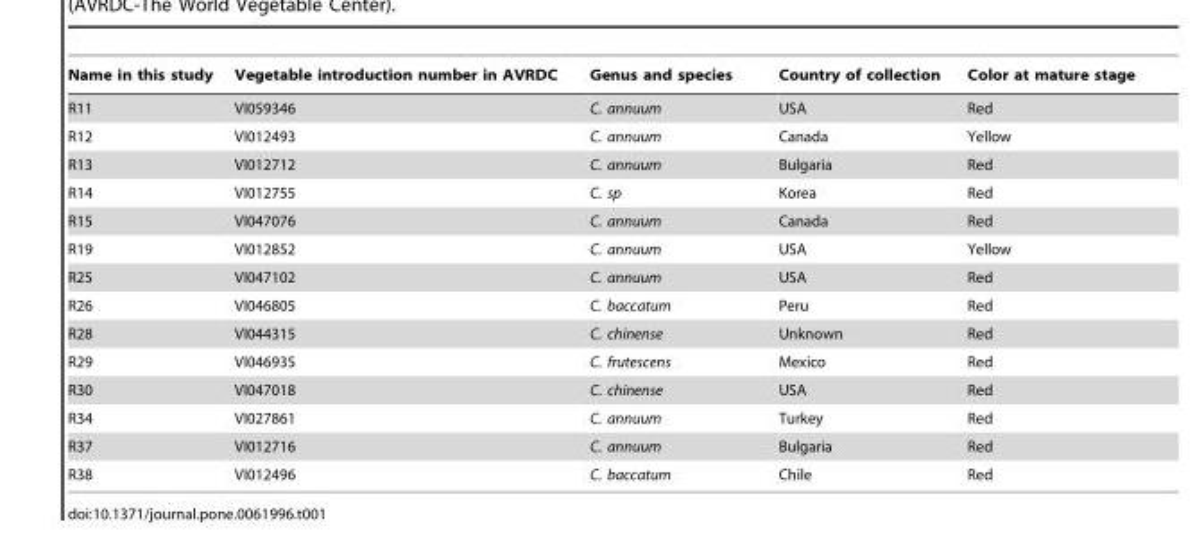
<table><thead><tr><td>Name in this study</td><td>Vegetable introduction number in AVRDC</td><td>Genus and species</td><td>Country of collection</td><td>Color at mature stage</td></tr></thead><tbody><tr><td>R11</td><td>VI059346</td><td>C. annuum</td><td>USA</td><td>Red</td></tr><tr><td>R12</td><td>VI012493</td><td>C. annuum</td><td>Canada</td><td>Yellow</td></tr><tr><td>R13</td><td>VI012712</td><td>C. annuum</td><td>Bulgaria</td><td>Red</td></tr><tr><td>R14</td><td>VI012755</td><td>C. sp</td><td>Korea</td><td>Red</td></tr><tr><td>R15</td><td>VI047076</td><td>C. annuum</td><td>Canada</td><td>Red</td></tr><tr><td>R19</td><td>VI012852</td><td>C. annuum</td><td>USA</td><td>Yellow</td></tr><tr><td>R25</td><td>VI047102</td><td>C. annuum</td><td>USA</td><td>Red</td></tr><tr><td>R26</td><td>VI046805</td><td>C. baccatum</td><td>Peru</td><td>Red</td></tr><tr><td>R28</td><td>VI044315</td><td>C. chinense</td><td>Unknown</td><td>Red</td></tr><tr><td>R29</td><td>VI046935</td><td>C. frutescens</td><td>Mexico</td><td>Red</td></tr><tr><td>R30</td><td>VI047018</td><td>C. chinense</td><td>USA</td><td>Red</td></tr><tr><td>R34</td><td>VI027861</td><td>C. annuum</td><td>Turkey</td><td>Red</td></tr><tr><td>R37</td><td>VI012716</td><td>C. annuum</td><td>Bulgaria</td><td>Red</td></tr><tr><td>R38</td><td>VI012496</td><td>C. baccatum</td><td>Chile</td><td>Red</td></tr></tbody></table>